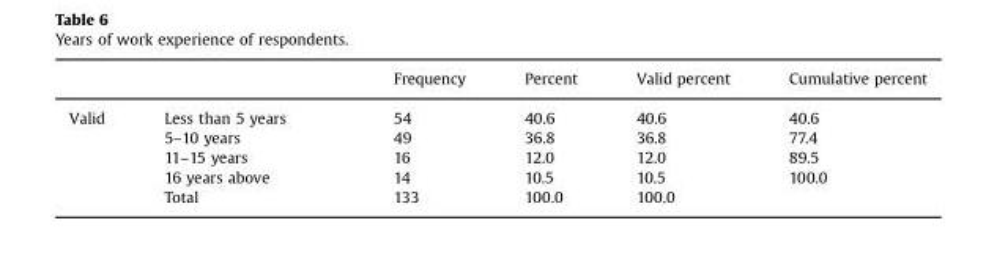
<table><thead><tr><td></td><td></td><td>Frequency</td><td>Percent</td><td>Valid percent</td><td>Cumulative percent</td></tr></thead><tbody><tr><td rowspan="5">Valid</td><td>Less than 5 years</td><td>54</td><td>40.6</td><td>40.6</td><td>40.6</td></tr><tr><td>5–10 years</td><td>49</td><td>36.8</td><td>36.8</td><td>77.4</td></tr><tr><td>11–15 years</td><td>16</td><td>12.0</td><td>12.0</td><td>89.5</td></tr><tr><td>16 years above</td><td>14</td><td>10.5</td><td>10.5</td><td>100.0</td></tr><tr><td>Total</td><td>133</td><td>100.0</td><td>100.0</td><td></td></tr></tbody></table>